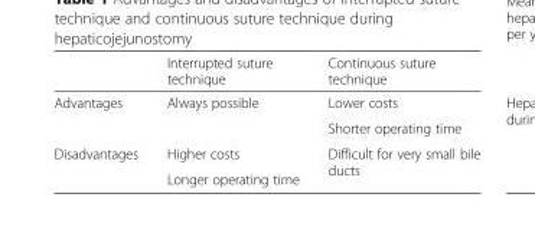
<table><thead><tr><td></td><td>Interrupted suture technique</td><td>Continuous suture technique</td></tr></thead><tbody><tr><td rowspan="2">Advantages</td><td rowspan="2">Always possible</td><td>Lower costs</td></tr><tr><td>Shorter operating time</td></tr><tr><td rowspan="2">Disadvantages</td><td>Higher costs</td><td rowspan="2">Difficult for very small bile ducts</td></tr><tr><td>Longer operating time</td></tr></tbody></table>